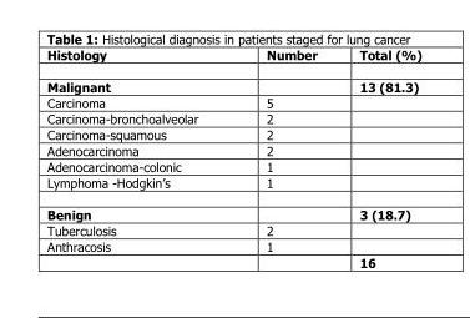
<table><thead><tr><td>Histology</td><td>Number</td><td>Total (%)</td></tr></thead><tbody><tr><td>Malignant</td><td></td><td>13 (81.3)</td></tr><tr><td>Carcinoma</td><td>5</td><td></td></tr><tr><td>Carcinoma-bronchoalveolar</td><td>2</td><td></td></tr><tr><td>Carcinoma-squamous</td><td>2</td><td></td></tr><tr><td>Adenocarcinoma</td><td>2</td><td></td></tr><tr><td>Adenocarcinoma-colonic</td><td>1</td><td></td></tr><tr><td>Lymphoma -Hodgkin’s</td><td>1</td><td></td></tr><tr><td>Benign</td><td></td><td>3 (18.7)</td></tr><tr><td>Tuberculosis</td><td>2</td><td></td></tr><tr><td rowspan="2">Anthracosis</td><td>1</td><td></td></tr><tr><td></td><td>16</td></tr></tbody></table>